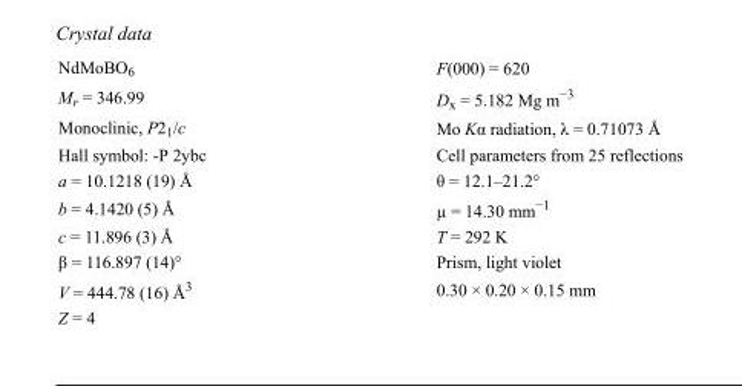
<table><tbody><tr><td>NdMoBO<sub>6</sub></td><td>F(000) = 620</td></tr><tr><td>M<sub>r</sub> = 346.99</td><td>D<sub>x</sub> = 5.182 Mg m<sup>−3</sup></td></tr><tr><td>Monoclinic, P2<sub>1</sub>/c</td><td>Mo Kα radiation, λ = 0.71073 Å</td></tr><tr><td>Hall symbol: -P 2ybc</td><td>Cell parameters from 25 reflections</td></tr><tr><td>a = 10.1218 (19) Å</td><td>θ = 12.1–21.2°</td></tr><tr><td>b = 4.1420 (5) Å</td><td>µ = 14.30 mm<sup>−1</sup></td></tr><tr><td>c = 11.896 (3) Å</td><td>T = 292 K</td></tr><tr><td>β = 116.897 (14)°</td><td>Prism, light violet</td></tr><tr><td>V = 444.78 (16) Å<sup>3</sup></td><td>0.30 × 0.20 × 0.15 mm</td></tr><tr><td>Z = 4</td><td></td></tr></tbody></table>